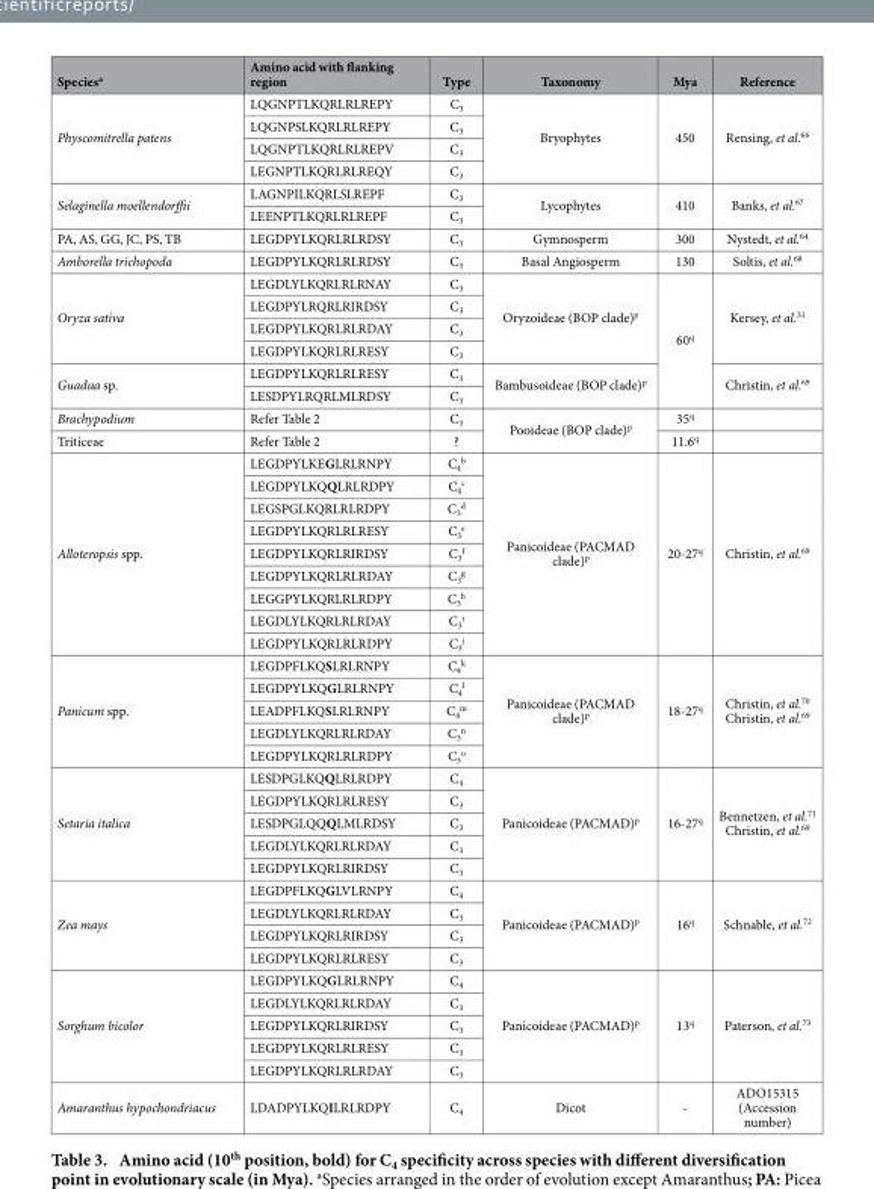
<table><thead><tr><td>Species<sup>a</sup></td><td>Amino acid with flanking region</td><td>Type</td><td>Taxonomy</td><td>Mya</td><td>Reference</td></tr></thead><tbody><tr><td rowspan="4">Physcomitrella patens</td><td>LQGNPTLKQRLRLREPY</td><td>C<sub>3</sub></td><td rowspan="4">Bryophytes</td><td rowspan="4">450</td><td rowspan="4">Rensing, et al.<sup>66</sup></td></tr><tr><td>LQGNPSLKQRLRLREPY</td><td>C<sub>3</sub></td></tr><tr><td>LQGNPTLKQRLRLREPV</td><td>C<sub>3</sub></td></tr><tr><td>LEGNPTLKQRLRLREQY</td><td>C<sub>3</sub></td></tr><tr><td rowspan="2">Selaginella moellendorffii</td><td>LAGNPILKQRLSLREPF</td><td>C<sub>3</sub></td><td rowspan="2">Lycophytes</td><td rowspan="2">410</td><td rowspan="2">Banks, et al.<sup>67</sup></td></tr><tr><td>LEENPTLKQRLRLREPF</td><td>C<sub>3</sub></td></tr><tr><td>PA, AS, GG, JC, PS, TB</td><td>LEGDPYLKQRLRLRDSY</td><td>C<sub>3</sub></td><td>Gymnosperm</td><td>300</td><td>Nystedt, et al.<sup>64</sup></td></tr><tr><td>Amborella trichopoda</td><td>LEGDPYLKQRLRLRDSY</td><td>C<sub>3</sub></td><td>Basal Angiosperm</td><td>130</td><td>Soltis, et al.<sup>68</sup></td></tr><tr><td rowspan="4">Oryza sativa</td><td>LEGDLYLKQRLRLRNAY</td><td>C<sub>3</sub></td><td rowspan="4">Oryzoideae (BOP clade)<sup>p</sup></td><td rowspan="6">60<sup>q</sup></td><td rowspan="4">Kersey, et al.<sup>31</sup></td></tr><tr><td>LEGDPYLRQRLRIRDSY</td><td>C<sub>3</sub></td></tr><tr><td>LEGDPYLKQRLRLRDAY</td><td>C<sub>3</sub></td></tr><tr><td>LEGDPYLKQRLRLRESY</td><td>C<sub>3</sub></td></tr><tr><td rowspan="2">Guadua sp.</td><td>LEGDPYLKQRLRLRESY</td><td>C<sub>3</sub></td><td rowspan="2">Bambusoideae (BOP clade)<sup>p</sup></td><td rowspan="2">Christin, et al.<sup>69</sup></td></tr><tr><td>LESDPYLRQRLMLRDSY</td><td>C<sub>3</sub></td></tr><tr><td>Brachypodium</td><td>Refer Table 2</td><td>C<sub>3</sub></td><td rowspan="2">Pooideae (BOP clade)<sup>p</sup></td><td>35<sup>q</sup></td><td></td></tr><tr><td>Triticeae</td><td>Refer Table 2</td><td>?</td><td>11.6<sup>q</sup></td><td></td></tr><tr><td rowspan="9">Alloteropsis spp.</td><td>LEGDPYLKEGLRLRNPY</td><td>C<sub>4</sub> <sup>b</sup></td><td rowspan="9">Panicoideae (PACMAD clade)<sup>p</sup></td><td rowspan="9">20-27<sup>q</sup></td><td rowspan="9">Christin, et al.<sup>69</sup></td></tr><tr><td>LEGDPYLKQQLRLRDPY</td><td>C<sub>4</sub> <sup>c</sup></td></tr><tr><td>LEGSPGLKQRLRLRDPY</td><td>C<sub>3</sub> <sup>d</sup></td></tr><tr><td>LEGDPYLKQRLRLRESY</td><td>C<sub>3</sub> <sup>e</sup></td></tr><tr><td>LEGDPYLKQRLRIRDSY</td><td>C<sub>3</sub> <sup>f</sup></td></tr><tr><td>LEGDPYLKQRLRLRDAY</td><td>C<sub>3</sub> <sup>g</sup></td></tr><tr><td>LEGGPYLKQRLRLRDPY</td><td>C<sub>3</sub> <sup>h</sup></td></tr><tr><td>LEGDLYLKQRLRLRDAY</td><td>C<sub>3</sub> <sup>i</sup></td></tr><tr><td>LEGDPYLKQRLRLRDPY</td><td>C<sub>3</sub> <sup>j</sup></td></tr><tr><td rowspan="5">Panicum spp.</td><td>LEGDPFLKQSLRLRNPY</td><td>C<sub>4</sub> <sup>k</sup></td><td rowspan="5">Panicoideae (PACMAD clade)<sup>p</sup></td><td rowspan="5">18-27<sup>q</sup></td><td rowspan="5">Christin, et al.<sup>70</sup> Christin, et al.<sup>69</sup></td></tr><tr><td>LEGDPYLKQGLRLRNPY</td><td>C<sub>4</sub> <sup>l</sup></td></tr><tr><td>LEADPFLKQSLRLRNPY</td><td>C<sub>4</sub> <sup>m</sup></td></tr><tr><td>LEGDLYLKQRLRLRDAY</td><td>C<sub>3</sub> <sup>n</sup></td></tr><tr><td>LEGDPYLKQRLRLRDPY</td><td>C<sub>3</sub> <sup>o</sup></td></tr><tr><td rowspan="5">Setaria italica</td><td>LESDPGLKQQLRLRDPY</td><td>C<sub>4</sub></td><td rowspan="5">Panicoideae (PACMAD)<sup>p</sup></td><td rowspan="5">16-27<sup>q</sup></td><td rowspan="5">Bennetzen, et al.<sup>71</sup> Christin, et al.<sup>69</sup></td></tr><tr><td>LEGDPYLKQRLRLRESY</td><td>C<sub>3</sub></td></tr><tr><td>LESDPGLQQQLMLRDSY</td><td>C<sub>3</sub></td></tr><tr><td>LEGDLYLKQRLRLRDAY</td><td>C<sub>3</sub></td></tr><tr><td>LEGDPYLKQRLRIRDSY</td><td>C<sub>3</sub></td></tr><tr><td rowspan="4">Zea mays</td><td>LEGDPFLKQGLVLRNPY</td><td>C<sub>4</sub></td><td rowspan="4">Panicoideae (PACMAD)<sup>p</sup></td><td rowspan="4">16<sup>q</sup></td><td rowspan="4">Schnable, et al.<sup>72</sup></td></tr><tr><td>LEGDLYLKQRLRLRDAY</td><td>C<sub>3</sub></td></tr><tr><td>LEGDPYLKQRLRIRDSY</td><td>C<sub>3</sub></td></tr><tr><td>LEGDPYLKQRLRLRESY</td><td>C<sub>3</sub></td></tr><tr><td rowspan="5">Sorghum bicolor</td><td>LEGDPYLKQGLRLRNPY</td><td>C<sub>4</sub></td><td rowspan="5">Panicoideae (PACMAD)<sup>p</sup></td><td rowspan="5">13<sup>q</sup></td><td rowspan="5">Paterson, et al.<sup>73</sup></td></tr><tr><td>LEGDLYLKQRLRLRDAY</td><td>C<sub>3</sub></td></tr><tr><td>LEGDPYLKQRLRIRDSY</td><td>C<sub>3</sub></td></tr><tr><td>LEGDPYLKQRLRLRESY</td><td>C<sub>3</sub></td></tr><tr><td>LEGDPYLKQRLRLRDAY</td><td>C<sub>3</sub></td></tr><tr><td>Amaranthus hypochondriacus</td><td>LDADPYLKQILRLRDPY</td><td>C<sub>4</sub></td><td>Dicot</td><td>-</td><td>ADO15315 (Accession number)</td></tr></tbody></table>